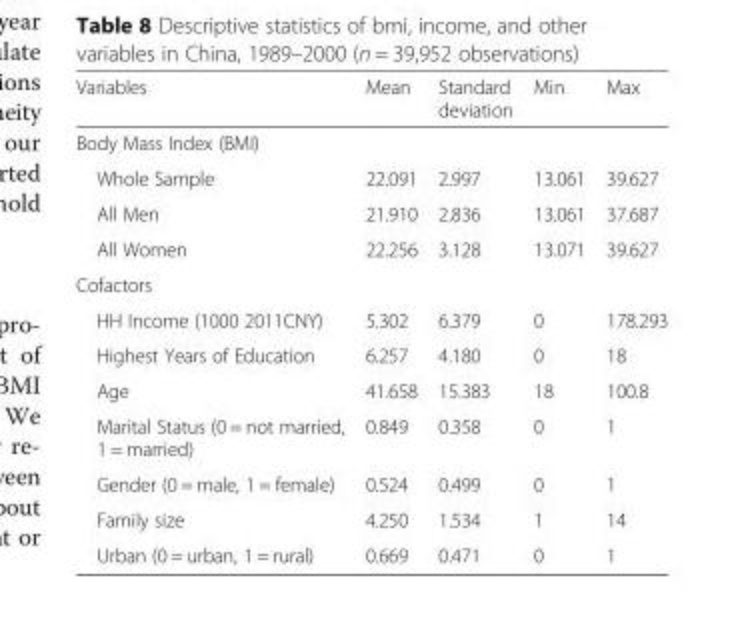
<table><thead><tr><td>Variables</td><td>Mean</td><td>Standard deviation</td><td>Min</td><td>Max</td></tr></thead><tbody><tr><td colspan="5">Body Mass Index (BMI)</td></tr><tr><td>Whole Sample</td><td>22.091</td><td>2.997</td><td>13.061</td><td>39.627</td></tr><tr><td>All Men</td><td>21.910</td><td>2.836</td><td>13.061</td><td>37.687</td></tr><tr><td>All Women</td><td>22.256</td><td>3.128</td><td>13.071</td><td>39.627</td></tr><tr><td colspan="5">Cofactors</td></tr><tr><td>HH Income (1000 2011CNY)</td><td>5.302</td><td>6.379</td><td>0</td><td>178.293</td></tr><tr><td>Highest Years of Education</td><td>6.257</td><td>4.180</td><td>0</td><td>18</td></tr><tr><td>Age</td><td>41.658</td><td>15.383</td><td>18</td><td>100.8</td></tr><tr><td>Marital Status (0 = not married, 1 = married)</td><td>0.849</td><td>0.358</td><td>0</td><td>1</td></tr><tr><td>Gender (0 = male, 1 = female)</td><td>0.524</td><td>0.499</td><td>0</td><td>1</td></tr><tr><td>Family size</td><td>4.250</td><td>1.534</td><td>1</td><td>14</td></tr><tr><td>Urban (0 = urban, 1 = rural)</td><td>0.669</td><td>0.471</td><td>0</td><td>1</td></tr></tbody></table>